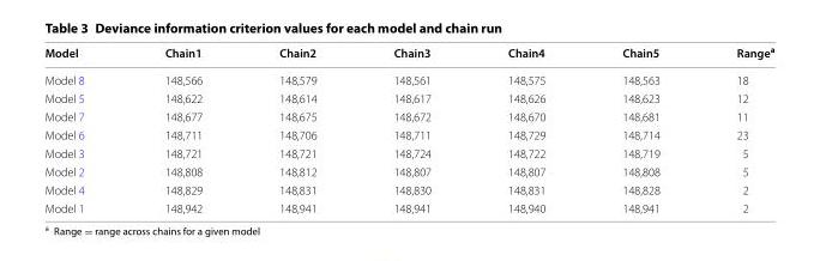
<table><thead><tr><td>Model</td><td>Chain1</td><td>Chain2</td><td>Chain3</td><td>Chain4</td><td>Chain5</td><td>Range<sup>a</sup></td></tr></thead><tbody><tr><td>Model 8</td><td>148,566</td><td>148,579</td><td>148,561</td><td>148,575</td><td>148,563</td><td>18</td></tr><tr><td>Model 5</td><td>148,622</td><td>148,614</td><td>148,617</td><td>148,626</td><td>148,623</td><td>12</td></tr><tr><td>Model 7</td><td>148,677</td><td>148,675</td><td>148,672</td><td>148,670</td><td>148,681</td><td>11</td></tr><tr><td>Model 6</td><td>148,711</td><td>148,706</td><td>148,711</td><td>148,729</td><td>148,714</td><td>23</td></tr><tr><td>Model 3</td><td>148,721</td><td>148,721</td><td>148,724</td><td>148,722</td><td>148,719</td><td>5</td></tr><tr><td>Model 2</td><td>148,808</td><td>148,812</td><td>148,807</td><td>148,807</td><td>148,808</td><td>5</td></tr><tr><td>Model 4</td><td>148,829</td><td>148,831</td><td>148,830</td><td>148,831</td><td>148,828</td><td>2</td></tr><tr><td>Model 1</td><td>148,942</td><td>148,941</td><td>148,941</td><td>148,940</td><td>148,941</td><td>2</td></tr></tbody></table>